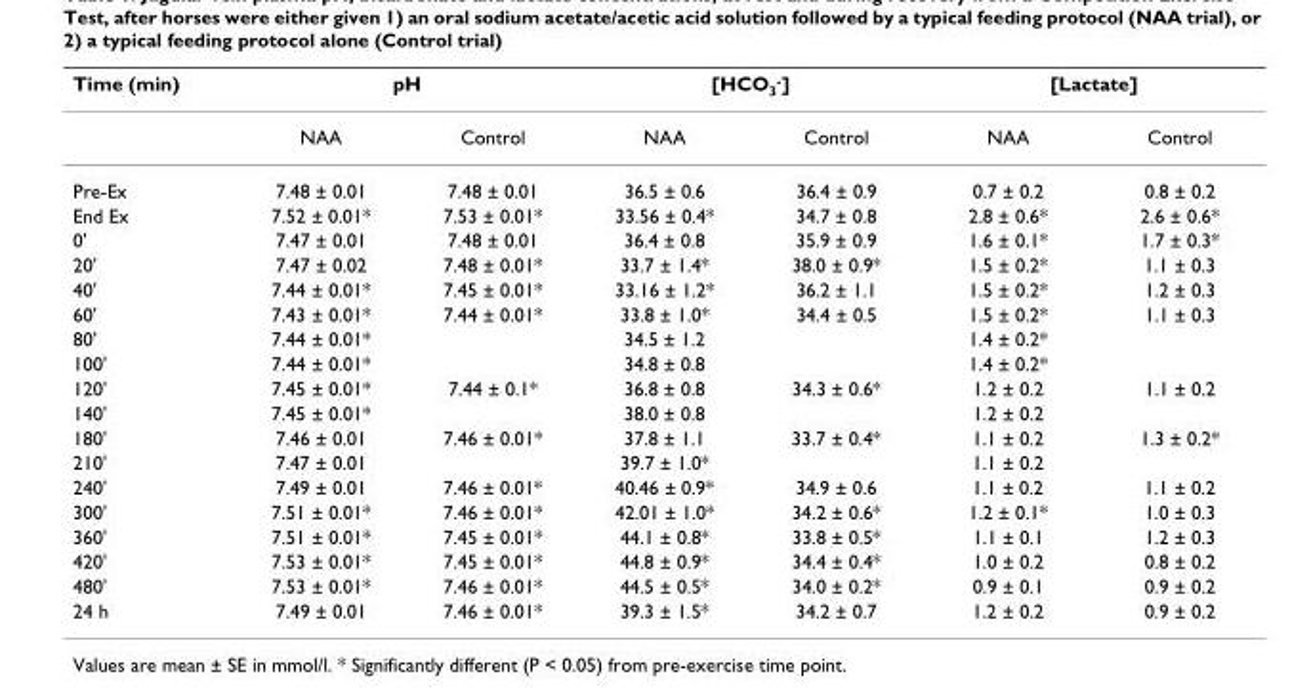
<table><thead><tr><td rowspan="2">Time (min)</td><td colspan="2">pH</td><td colspan="2">[HCO<sub>3</sub><sup>-</sup>]</td><td colspan="2">[Lactate]</td></tr><tr><td>NAA</td><td>Control</td><td>NAA</td><td>Control</td><td>NAA</td><td>Control</td></tr></thead><tbody><tr><td>Pre-Ex</td><td>7.48 ± 0.01</td><td>7.48 ± 0.01</td><td>36.5 ± 0.6</td><td>36.4 ± 0.9</td><td>0.7 ± 0.2</td><td>0.8 ± 0.2</td></tr><tr><td>End Ex</td><td>7.52 ± 0.01*</td><td>7.53 ± 0.01*</td><td>33.56 ± 0.4*</td><td>34.7 ± 0.8</td><td>2.8 ± 0.6*</td><td>2.6 ± 0.6*</td></tr><tr><td>0&#x27;</td><td>7.47 ± 0.01</td><td>7.48 ± 0.01</td><td>36.4 ± 0.8</td><td>35.9 ± 0.9</td><td>1.6 ± 0.1*</td><td>1.7 ± 0.3*</td></tr><tr><td>20&#x27;</td><td>7.47 ± 0.02</td><td>7.48 ± 0.01*</td><td>33.7 ± 1.4*</td><td>38.0 ± 0.9*</td><td>1.5 ± 0.2*</td><td>1.1 ± 0.3</td></tr><tr><td>40&#x27;</td><td>7.44 ± 0.01*</td><td>7.45 ± 0.01*</td><td>33.16 ± 1.2*</td><td>36.2 ± 1.1</td><td>1.5 ± 0.2*</td><td>1.2 ± 0.3</td></tr><tr><td>60&#x27;</td><td>7.43 ± 0.01*</td><td>7.44 ± 0.01*</td><td>33.8 ± 1.0*</td><td>34.4 ± 0.5</td><td>1.5 ± 0.2*</td><td>1.1 ± 0.3</td></tr><tr><td>80&#x27;</td><td>7.44 ± 0.01*</td><td></td><td>34.5 ± 1.2</td><td></td><td>1.4 ± 0.2*</td><td></td></tr><tr><td>100&#x27;</td><td>7.44 ± 0.01*</td><td></td><td>34.8 ± 0.8</td><td></td><td>1.4 ± 0.2*</td><td></td></tr><tr><td>120&#x27;</td><td>7.45 ± 0.01*</td><td>7.44 ± 0.1*</td><td>36.8 ± 0.8</td><td>34.3 ± 0.6*</td><td>1.2 ± 0.2</td><td>1.1 ± 0.2</td></tr><tr><td>140&#x27;</td><td>7.45 ± 0.01*</td><td></td><td>38.0 ± 0.8</td><td></td><td>1.2 ± 0.2</td><td></td></tr><tr><td>180&#x27;</td><td>7.46 ± 0.01</td><td>7.46 ± 0.01*</td><td>37.8 ± 1.1</td><td>33.7 ± 0.4*</td><td>1.1 ± 0.2</td><td>1.3 ± 0.2*</td></tr><tr><td>210&#x27;</td><td>7.47 ± 0.01</td><td></td><td>39.7 ± 1.0*</td><td></td><td>1.1 ± 0.2</td><td></td></tr><tr><td>240&#x27;</td><td>7.49 ± 0.01</td><td>7.46 ± 0.01*</td><td>40.46 ± 0.9*</td><td>34.9 ± 0.6</td><td>1.1 ± 0.2</td><td>1.1 ± 0.2</td></tr><tr><td>300&#x27;</td><td>7.51 ± 0.01*</td><td>7.46 ± 0.01*</td><td>42.01 ± 1.0*</td><td>34.2 ± 0.6*</td><td>1.2 ± 0.1*</td><td>1.0 ± 0.3</td></tr><tr><td>360&#x27;</td><td>7.51 ± 0.01*</td><td>7.45 ± 0.01*</td><td>44.1 ± 0.8*</td><td>33.8 ± 0.5*</td><td>1.1 ± 0.1</td><td>1.2 ± 0.3</td></tr><tr><td>420&#x27;</td><td>7.53 ± 0.01*</td><td>7.45 ± 0.01*</td><td>44.8 ± 0.9*</td><td>34.4 ± 0.4*</td><td>1.0 ± 0.2</td><td>0.8 ± 0.2</td></tr><tr><td>480&#x27;</td><td>7.53 ± 0.01*</td><td>7.46 ± 0.01*</td><td>44.5 ± 0.5*</td><td>34.0 ± 0.2*</td><td>0.9 ± 0.1</td><td>0.9 ± 0.2</td></tr><tr><td>24 h</td><td>7.49 ± 0.01</td><td>7.46 ± 0.01*</td><td>39.3 ± 1.5*</td><td>34.2 ± 0.7</td><td>1.2 ± 0.2</td><td>0.9 ± 0.2</td></tr></tbody></table>